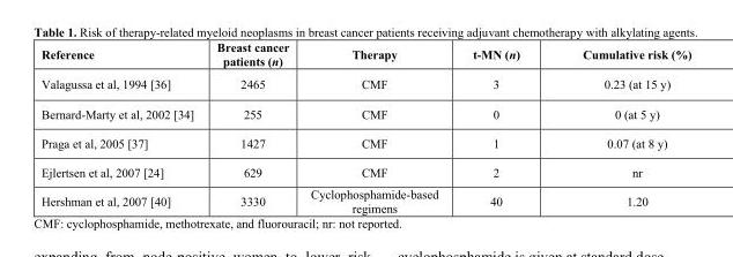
<table><thead><tr><td>Reference</td><td>Breast cancer patients (n)</td><td>Therapy</td><td>t-MN (n)</td><td>Cumulative risk (%)</td></tr></thead><tbody><tr><td>Valagussa et al, 1994 [36]</td><td>2465</td><td>CMF</td><td>3</td><td>0.23 (at 15 y)</td></tr><tr><td>Bernard-Marty et al, 2002 [34]</td><td>255</td><td>CMF</td><td>0</td><td>0 (at 5 y)</td></tr><tr><td>Praga et al, 2005 [37]</td><td>1427</td><td>CMF</td><td>1</td><td>0.07 (at 8 y)</td></tr><tr><td>Ejlertsen et al, 2007 [24]</td><td>629</td><td>CMF</td><td>2</td><td>nr</td></tr><tr><td>Hershman et al, 2007 [40]</td><td>3330</td><td>Cyclophosphamide-based regimens</td><td>40</td><td>1.20</td></tr></tbody></table>